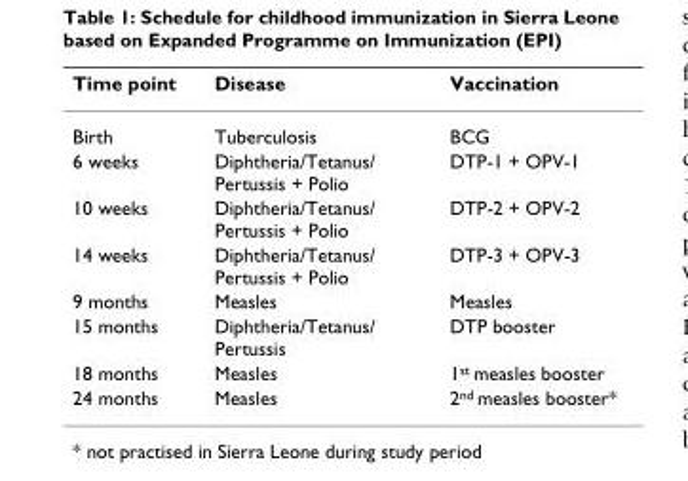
<table><thead><tr><td>Time point</td><td>Disease</td><td>Vaccination</td></tr></thead><tbody><tr><td>Birth</td><td>Tuberculosis</td><td>BCG</td></tr><tr><td>6 weeks</td><td>Diphtheria/Tetanus/ Pertussis + Polio</td><td>DTP-1 + OPV-1</td></tr><tr><td>10 weeks</td><td>Diphtheria/Tetanus/ Pertussis + Polio</td><td>DTP-2 + OPV-2</td></tr><tr><td>14 weeks</td><td>Diphtheria/Tetanus/ Pertussis + Polio</td><td>DTP-3 + OPV-3</td></tr><tr><td>9 months</td><td>Measles</td><td>Measles</td></tr><tr><td>15 months</td><td>Diphtheria/Tetanus/ Pertussis</td><td>DTP booster</td></tr><tr><td>18 months</td><td>Measles</td><td>1<sup>st</sup> measles booster</td></tr><tr><td>24 months</td><td>Measles</td><td>2<sup>nd</sup> measles booster*</td></tr></tbody></table>